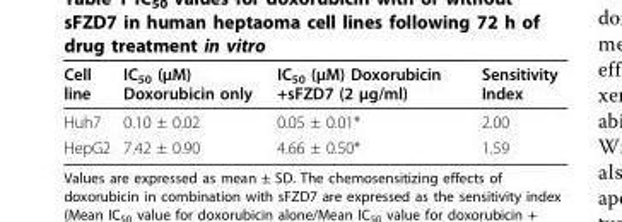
<table><thead><tr><td>Cell line</td><td>IC<sub>50</sub> (μM) Doxorubicin only</td><td>IC<sub>50</sub> (μM) Doxorubicin +sFZD7 (2 μg/ml)</td><td>Sensitivity Index</td></tr></thead><tbody><tr><td>Huh7</td><td>0.10 ± 0.02</td><td>0.05 ± 0.01*</td><td>2.00</td></tr><tr><td>HepG2</td><td>7.42 ± 0.90</td><td>4.66 ± 0.50*</td><td>1.59</td></tr></tbody></table>